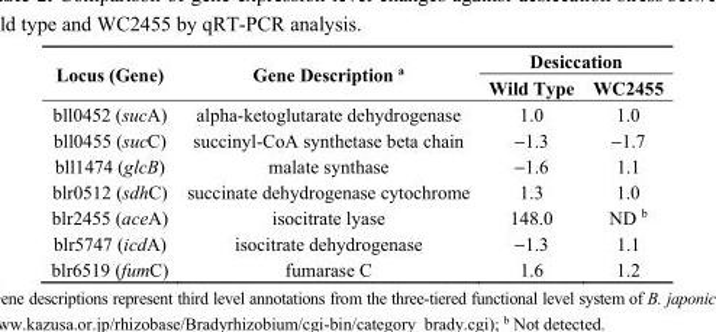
<table><thead><tr><td rowspan="2">Locus (Gene)</td><td rowspan="2">Gene Description <sup>a</sup></td><td colspan="2">Desiccation</td></tr><tr><td>Wild Type</td><td>WC2455</td></tr></thead><tbody><tr><td>bll0452 (sucA)</td><td>alpha-ketoglutarate dehydrogenase</td><td>1.0</td><td>1.0</td></tr><tr><td>bll0455 (sucC)</td><td>succinyl-CoA synthetase beta chain</td><td>−1.3</td><td>−1.7</td></tr><tr><td>bll1474 (glcB)</td><td>malate synthase</td><td>−1.6</td><td>1.1</td></tr><tr><td>blr0512 (sdhC)</td><td>succinate dehydrogenase cytochrome</td><td>1.3</td><td>1.0</td></tr><tr><td>blr2455 (aceA)</td><td>isocitrate lyase</td><td>148.0</td><td>ND <sup>b</sup></td></tr><tr><td>blr5747 (icdA)</td><td>isocitrate dehydrogenase</td><td>−1.3</td><td>1.1</td></tr><tr><td>blr6519 (fumC)</td><td>fumarase C</td><td>1.6</td><td>1.2</td></tr></tbody></table>